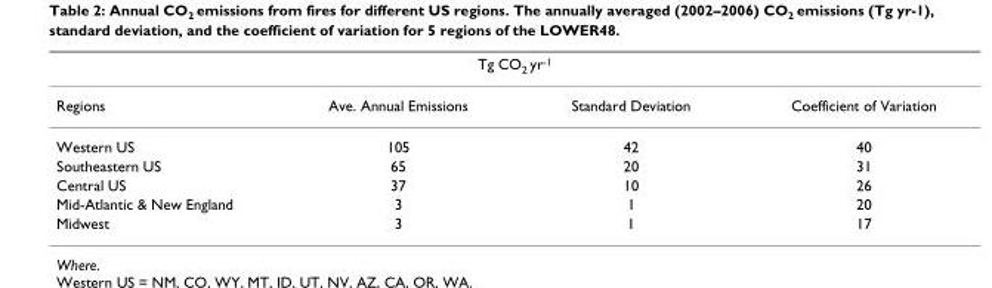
<table><thead><tr><td colspan="4">Tg CO<sub>2</sub> yr<sup>-1</sup></td></tr><tr><td>Regions</td><td>Ave. Annual Emissions</td><td>Standard Deviation</td><td>Coefficient of Variation</td></tr></thead><tbody><tr><td>Western US</td><td>105</td><td>42</td><td>40</td></tr><tr><td>Southeastern US</td><td>65</td><td>20</td><td>31</td></tr><tr><td>Central US</td><td>37</td><td>10</td><td>26</td></tr><tr><td>Mid-Atlantic &amp; New England</td><td>3</td><td>1</td><td>20</td></tr><tr><td>Midwest</td><td>3</td><td>1</td><td>17</td></tr></tbody></table>